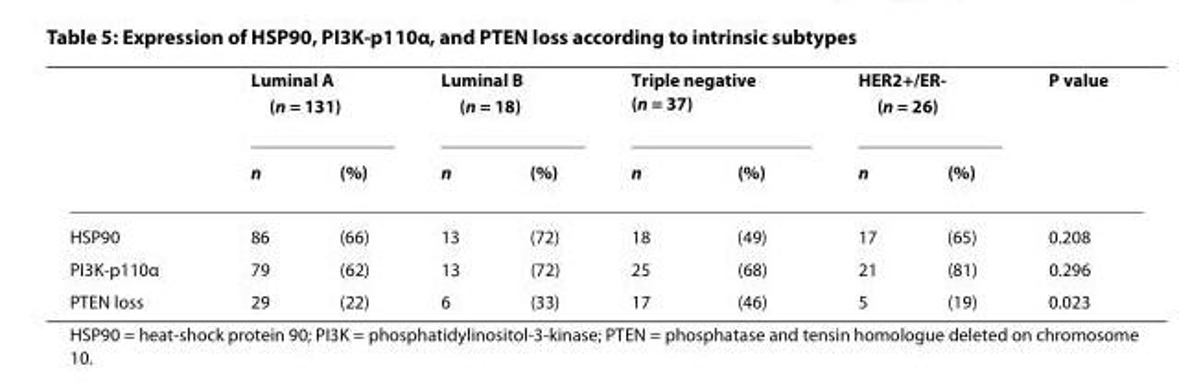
<table><thead><tr><td rowspan="2"></td><td colspan="2">Luminal A (n = 131)</td><td colspan="2">Luminal B (n = 18)</td><td colspan="2">Triple negative (n = 37)</td><td colspan="2">HER2+/ER- (n = 26)</td><td rowspan="2">P value</td></tr><tr><td>n</td><td>(%)</td><td>n</td><td>(%)</td><td>n</td><td>(%)</td><td>n</td><td>(%)</td></tr></thead><tbody><tr><td>HSP90</td><td>86</td><td>(66)</td><td>13</td><td>(72)</td><td>18</td><td>(49)</td><td>17</td><td>(65)</td><td>0.208</td></tr><tr><td>PI3K-p110α</td><td>79</td><td>(62)</td><td>13</td><td>(72)</td><td>25</td><td>(68)</td><td>21</td><td>(81)</td><td>0.296</td></tr><tr><td>PTEN loss</td><td>29</td><td>(22)</td><td>6</td><td>(33)</td><td>17</td><td>(46)</td><td>5</td><td>(19)</td><td>0.023</td></tr></tbody></table>